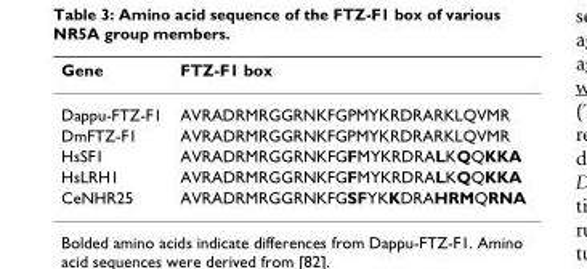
<table><thead><tr><td>Gene</td><td>FTZ-F1 box</td></tr></thead><tbody><tr><td>Dappu-FTZ-F1</td><td>AVRADRMRGGRNKFGPMYKRDRARKLQVMR</td></tr><tr><td>DmFTZ-F1</td><td>AVRADRMRGGRNKFGPMYKRDRARKLQVMR</td></tr><tr><td>HsSF1</td><td>AVRADRMRGGRNKFGFMYKRDRALKQQKKA</td></tr><tr><td>HsLRH1</td><td>AVRADRMRGGRNKFGFMYKRDRALKQQKKA</td></tr><tr><td>CeNHR25</td><td>AVRADRMRGGRNKFGSFYKKDRAHRMQRNA</td></tr></tbody></table>